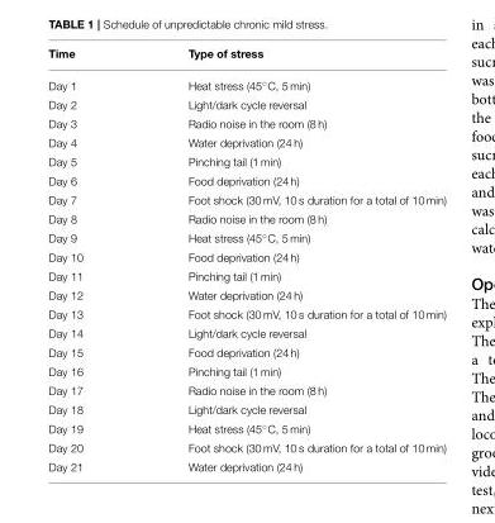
<table><thead><tr><td>Time</td><td>Type of stress</td></tr></thead><tbody><tr><td>Day 1</td><td>Heat stress (45◦C, 5 min)</td></tr><tr><td>Day 2</td><td>Light/dark cycle reversal</td></tr><tr><td>Day 3</td><td>Radio noise in the room (8 h)</td></tr><tr><td>Day 4</td><td>Water deprivation (24 h)</td></tr><tr><td>Day 5</td><td>Pinching tail (1 min)</td></tr><tr><td>Day 6</td><td>Food deprivation (24 h)</td></tr><tr><td>Day 7</td><td>Foot shock (30 mV, 10 s duration for a total of 10 min)</td></tr><tr><td>Day 8</td><td>Radio noise in the room (8 h)</td></tr><tr><td>Day 9</td><td>Heat stress (45◦C, 5 min)</td></tr><tr><td>Day 10</td><td>Food deprivation (24 h)</td></tr><tr><td>Day 11</td><td>Pinching tail (1 min)</td></tr><tr><td>Day 12</td><td>Water deprivation (24 h)</td></tr><tr><td>Day 13</td><td>Foot shock (30 mV, 10 s duration for a total of 10 min)</td></tr><tr><td>Day 14</td><td>Light/dark cycle reversal</td></tr><tr><td>Day 15</td><td>Food deprivation (24 h)</td></tr><tr><td>Day 16</td><td>Pinching tail (1 min)</td></tr><tr><td>Day 17</td><td>Radio noise in the room (8 h)</td></tr><tr><td>Day 18</td><td>Light/dark cycle reversal</td></tr><tr><td>Day 19</td><td>Heat stress (45◦C, 5 min)</td></tr><tr><td>Day 20</td><td>Foot shock (30 mV, 10 s duration for a total of 10 min)</td></tr><tr><td>Day 21</td><td>Water deprivation (24 h)</td></tr></tbody></table>